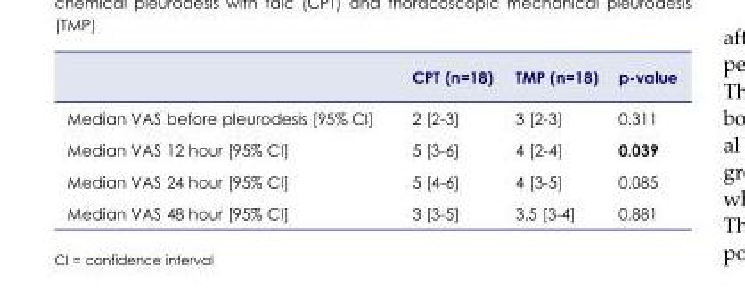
<table><thead><tr><td></td><td>CPT (n=18)</td><td>TMP (n=18)</td><td>p-value</td></tr></thead><tbody><tr><td>Median VAS before pleurodesis [95% CI]</td><td>2 [2-3]</td><td>3 [2-3]</td><td>0.311</td></tr><tr><td>Median VAS 12 hour [95% CI]</td><td>5 [3-6]</td><td>4 [2-4]</td><td>0.039</td></tr><tr><td>Median VAS 24 hour [95% CI]</td><td>5 [4-6]</td><td>4 [3-5]</td><td>0.085</td></tr><tr><td>Median VAS 48 hour [95% CI]</td><td>3 [3-5]</td><td>3,5 [3-4]</td><td>0.881</td></tr></tbody></table>